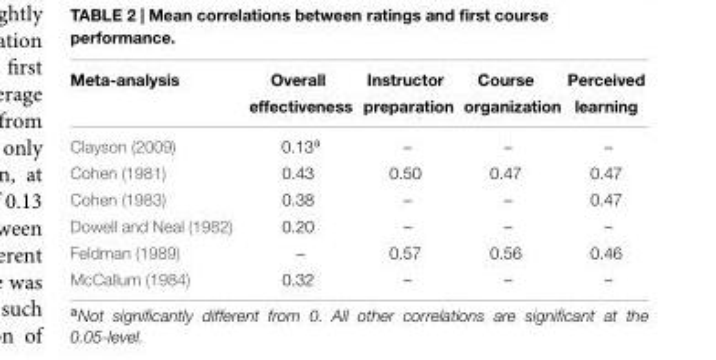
<table><thead><tr><td rowspan="2">Meta-analysis</td><td rowspan="2">Overall effectiveness</td><td rowspan="2">Instructor preparation</td><td rowspan="2">Course organization</td><td rowspan="2">Perceived learning</td></tr><tr></tr></thead><tbody><tr><td>Clayson (2009)</td><td>0.13<sup>a</sup></td><td>–</td><td>–</td><td>–</td></tr><tr><td>Cohen (1981)</td><td>0.43</td><td>0.50</td><td>0.47</td><td>0.47</td></tr><tr><td>Cohen (1983)</td><td>0.38</td><td>–</td><td>–</td><td>0.47</td></tr><tr><td>Dowell and Neal (1982)</td><td>0.20</td><td>–</td><td>–</td><td>–</td></tr><tr><td>Feldman (1989)</td><td>–</td><td>0.57</td><td>0.56</td><td>0.46</td></tr><tr><td>McCallum (1984)</td><td>0.32</td><td>–</td><td>–</td><td>–</td></tr></tbody></table>